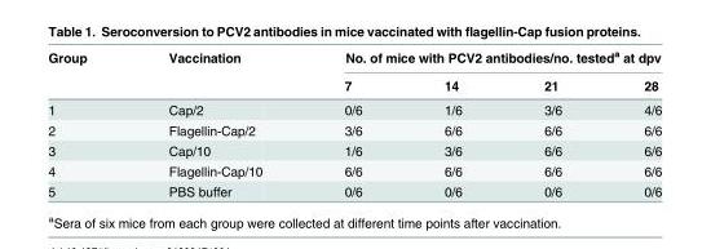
<table><thead><tr><td rowspan="2">Group</td><td rowspan="2">Vaccination</td><td colspan="4">No. of mice with PCV2 antibodies/no. tested<sup>a</sup> at dpv</td></tr><tr><td>7</td><td>14</td><td>21</td><td>28</td></tr></thead><tbody><tr><td>1</td><td>Cap/2</td><td>0/6</td><td>1/6</td><td>3/6</td><td>4/6</td></tr><tr><td>2</td><td>Flagellin-Cap/2</td><td>3/6</td><td>6/6</td><td>6/6</td><td>6/6</td></tr><tr><td>3</td><td>Cap/10</td><td>1/6</td><td>3/6</td><td>6/6</td><td>6/6</td></tr><tr><td>4</td><td>Flagellin-Cap/10</td><td>6/6</td><td>6/6</td><td>6/6</td><td>6/6</td></tr><tr><td>5</td><td>PBS buffer</td><td>0/6</td><td>0/6</td><td>0/6</td><td>0/6</td></tr></tbody></table>